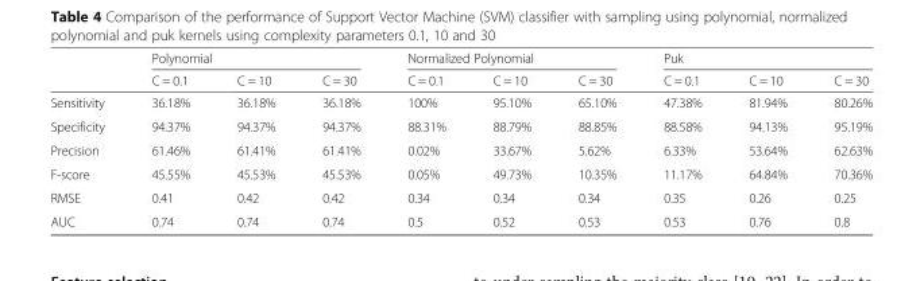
<table><thead><tr><td rowspan="2"></td><td colspan="3">Polynomial</td><td colspan="3">Normalized Polynomial</td><td colspan="3">Puk</td></tr><tr><td>C = 0.1</td><td>C = 10</td><td>C = 30</td><td>C = 0.1</td><td>C = 10</td><td>C = 30</td><td>C = 0.1</td><td>C = 10</td><td>C = 30</td></tr></thead><tbody><tr><td>Sensitivity</td><td>36.18%</td><td>36.18%</td><td>36.18%</td><td>100%</td><td>95.10%</td><td>65.10%</td><td>47.38%</td><td>81.94%</td><td>80.26%</td></tr><tr><td>Specificity</td><td>94.37%</td><td>94.37%</td><td>94.37%</td><td>88.31%</td><td>88.79%</td><td>88.85%</td><td>88.58%</td><td>94.13%</td><td>95.19%</td></tr><tr><td>Precision</td><td>61.46%</td><td>61.41%</td><td>61.41%</td><td>0.02%</td><td>33.67%</td><td>5.62%</td><td>6.33%</td><td>53.64%</td><td>62.63%</td></tr><tr><td>F-score</td><td>45.55%</td><td>45.53%</td><td>45.53%</td><td>0.05%</td><td>49.73%</td><td>10.35%</td><td>11.17%</td><td>64.84%</td><td>70.36%</td></tr><tr><td>RMSE</td><td>0.41</td><td>0.42</td><td>0.42</td><td>0.34</td><td>0.34</td><td>0.34</td><td>0.35</td><td>0.26</td><td>0.25</td></tr><tr><td>AUC</td><td>0.74</td><td>0.74</td><td>0.74</td><td>0.5</td><td>0.52</td><td>0.53</td><td>0.53</td><td>0.76</td><td>0.8</td></tr></tbody></table>